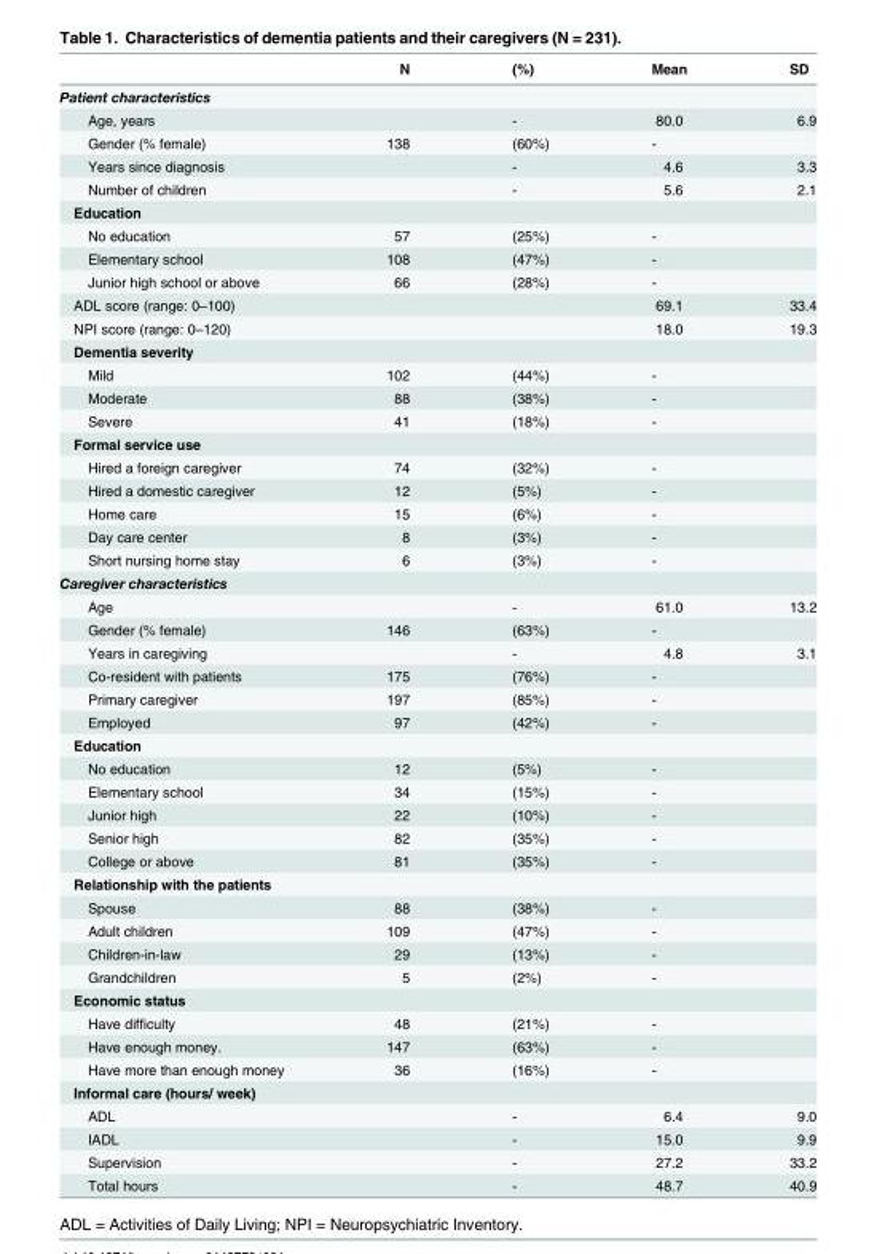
<table><thead><tr><td></td><td>N</td><td>(%)</td><td>Mean</td><td>SD</td></tr></thead><tbody><tr><td colspan="5">Patient characteristics</td></tr><tr><td>Age, years</td><td></td><td>-</td><td>80.0</td><td>6.9</td></tr><tr><td>Gender (% female)</td><td>138</td><td>(60%)</td><td>-</td><td></td></tr><tr><td>Years since diagnosis</td><td></td><td>-</td><td>4.6</td><td>3.3</td></tr><tr><td>Number of children</td><td></td><td>-</td><td>5.6</td><td>2.1</td></tr><tr><td colspan="5">Education</td></tr><tr><td>No education</td><td>57</td><td>(25%)</td><td>-</td><td></td></tr><tr><td>Elementary school</td><td>108</td><td>(47%)</td><td>-</td><td></td></tr><tr><td>Junior high school or above</td><td>66</td><td>(28%)</td><td>-</td><td></td></tr><tr><td>ADL score (range: 0–100)</td><td></td><td></td><td>69.1</td><td>33.4</td></tr><tr><td>NPI score (range: 0–120)</td><td></td><td></td><td>18.0</td><td>19.3</td></tr><tr><td colspan="5">Dementia severity</td></tr><tr><td>Mild</td><td>102</td><td>(44%)</td><td>-</td><td></td></tr><tr><td>Moderate</td><td>88</td><td>(38%)</td><td>-</td><td></td></tr><tr><td>Severe</td><td>41</td><td>(18%)</td><td>-</td><td></td></tr><tr><td colspan="5">Formal service use</td></tr><tr><td>Hired a foreign caregiver</td><td>74</td><td>(32%)</td><td>-</td><td></td></tr><tr><td>Hired a domestic caregiver</td><td>12</td><td>(5%)</td><td>-</td><td></td></tr><tr><td>Home care</td><td>15</td><td>(6%)</td><td>-</td><td></td></tr><tr><td>Day care center</td><td>8</td><td>(3%)</td><td>-</td><td></td></tr><tr><td>Short nursing home stay</td><td>6</td><td>(3%)</td><td>-</td><td></td></tr><tr><td colspan="5">Caregiver characteristics</td></tr><tr><td>Age</td><td></td><td>-</td><td>61.0</td><td>13.2</td></tr><tr><td>Gender (% female)</td><td>146</td><td>(63%)</td><td>-</td><td></td></tr><tr><td>Years in caregiving</td><td></td><td>-</td><td>4.8</td><td>3.1</td></tr><tr><td>Co-resident with patients</td><td>175</td><td>(76%)</td><td>-</td><td></td></tr><tr><td>Primary caregiver</td><td>197</td><td>(85%)</td><td>-</td><td></td></tr><tr><td>Employed</td><td>97</td><td>(42%)</td><td>-</td><td></td></tr><tr><td colspan="5">Education</td></tr><tr><td>No education</td><td>12</td><td>(5%)</td><td>-</td><td></td></tr><tr><td>Elementary school</td><td>34</td><td>(15%)</td><td>-</td><td></td></tr><tr><td>Junior high</td><td>22</td><td>(10%)</td><td>-</td><td></td></tr><tr><td>Senior high</td><td>82</td><td>(35%)</td><td>-</td><td></td></tr><tr><td>College or above</td><td>81</td><td>(35%)</td><td>-</td><td></td></tr><tr><td colspan="5">Relationship with the patients</td></tr><tr><td>Spouse</td><td>88</td><td>(38%)</td><td>-</td><td></td></tr><tr><td>Adult children</td><td>109</td><td>(47%)</td><td>-</td><td></td></tr><tr><td>Children-in-law</td><td>29</td><td>(13%)</td><td>-</td><td></td></tr><tr><td>Grandchildren</td><td>5</td><td>(2%)</td><td>-</td><td></td></tr><tr><td colspan="5">Economic status</td></tr><tr><td>Have difficulty</td><td>48</td><td>(21%)</td><td>-</td><td></td></tr><tr><td>Have enough money.</td><td>147</td><td>(63%)</td><td>-</td><td></td></tr><tr><td>Have more than enough money</td><td>36</td><td>(16%)</td><td>-</td><td></td></tr><tr><td colspan="5">Informal care (hours/ week)</td></tr><tr><td>ADL</td><td></td><td>-</td><td>6.4</td><td>9.0</td></tr><tr><td>IADL</td><td></td><td>-</td><td>15.0</td><td>9.9</td></tr><tr><td>Supervision</td><td></td><td>-</td><td>27.2</td><td>33.2</td></tr><tr><td>Total hours</td><td></td><td>-</td><td>48.7</td><td>40.9</td></tr></tbody></table>